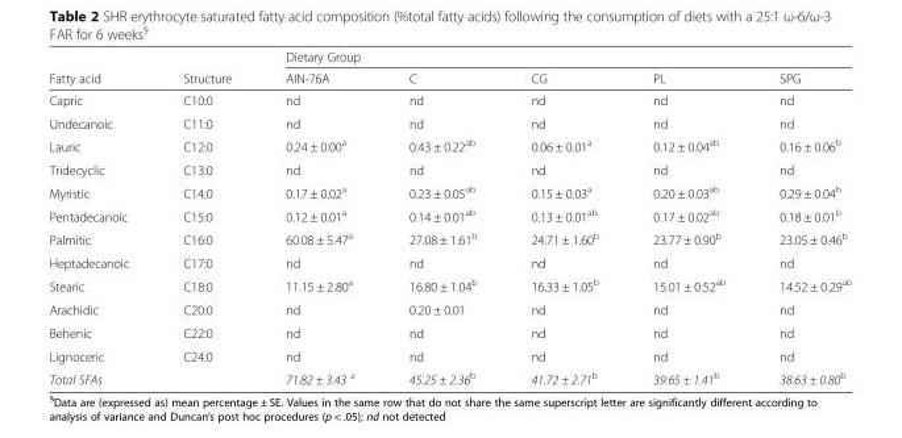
<table><thead><tr><td rowspan="2">Fatty acid</td><td rowspan="2">Structure</td><td colspan="5">Dietary Group</td></tr><tr><td>AIN-76A</td><td>C</td><td>CG</td><td>PL</td><td>SPG</td></tr></thead><tbody><tr><td>Capric</td><td>C10:0</td><td>nd</td><td>nd</td><td>nd</td><td>nd</td><td>nd</td></tr><tr><td>Undecanoic</td><td>C11:0</td><td>nd</td><td>nd</td><td>nd</td><td>nd</td><td>nd</td></tr><tr><td>Lauric</td><td>C12:0</td><td>0.24 ± 0.00<sup>a</sup></td><td>0.43 ± 0.22<sup>ab</sup></td><td>0.06 ± 0.01<sup>a</sup></td><td>0.12 ± 0.04<sup>ab</sup></td><td>0.16 ± 0.06<sup>b</sup></td></tr><tr><td>Tridecyclic</td><td>C13:0</td><td>nd</td><td>nd</td><td>nd</td><td>nd</td><td>nd</td></tr><tr><td>Myristic</td><td>C14:0</td><td>0.17 ± 0.02<sup>a</sup></td><td>0.23 ± 0.05<sup>ab</sup></td><td>0.15 ± 0.03<sup>a</sup></td><td>0.20 ± 0.03<sup>ab</sup></td><td>0.29 ± 0.04<sup>b</sup></td></tr><tr><td>Pentadecanoic</td><td>C15:0</td><td>0.12 ± 0.01<sup>a</sup></td><td>0.14 ± 0.01<sup>ab</sup></td><td>0.13 ± 0.01<sup>ab</sup></td><td>0.17 ± 0.02<sup>ab</sup></td><td>0.18 ± 0.01<sup>b</sup></td></tr><tr><td>Palmitic</td><td>C16:0</td><td>60.08 ± 5.47<sup>a</sup></td><td>27.08 ± 1.61<sup>b</sup></td><td>24.71 ± 1.60<sup>b</sup></td><td>23.77 ± 0.90<sup>b</sup></td><td>23.05 ± 0.46<sup>b</sup></td></tr><tr><td>Heptadecanoic</td><td>C17:0</td><td>nd</td><td>nd</td><td>nd</td><td>nd</td><td>nd</td></tr><tr><td>Stearic</td><td>C18:0</td><td>11.15 ± 2.80<sup>a</sup></td><td>16.80 ± 1.04<sup>b</sup></td><td>16.33 ± 1.05<sup>b</sup></td><td>15.01 ± 0.52<sup>ab</sup></td><td>14.52 ± 0.29<sup>ab</sup></td></tr><tr><td>Arachidic</td><td>C20:0</td><td>nd</td><td>0.20 ± 0.01</td><td>nd</td><td>nd</td><td>nd</td></tr><tr><td>Behenic</td><td>C22:0</td><td>nd</td><td>nd</td><td>nd</td><td>nd</td><td>nd</td></tr><tr><td>Lignoceric</td><td>C24:0</td><td>nd</td><td>nd</td><td>nd</td><td>nd</td><td>nd</td></tr><tr><td>Total SFAs</td><td></td><td>71.82 ± 3.43 <sup>a</sup></td><td>45.25 ± 2.36<sup>b</sup></td><td>41.72 ± 2.71<sup>b</sup></td><td>39.65 ± 1.41<sup>b</sup></td><td>38.63 ± 0.80<sup>b</sup></td></tr></tbody></table>